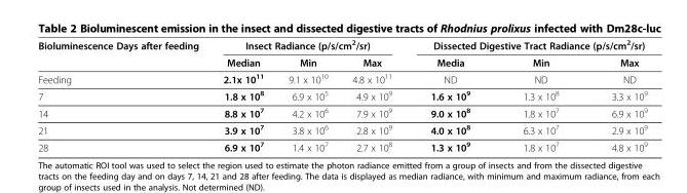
<table><thead><tr><td rowspan="2">Bioluminescence Days after feeding</td><td colspan="3">Insect Radiance (p/s/cm<sup>2</sup>/sr)</td><td colspan="3">Dissected Digestive Tract Radiance (p/s/cm<sup>2</sup>/sr)</td></tr><tr><td>Median</td><td>Min</td><td>Max</td><td>Media</td><td>Min</td><td>Max</td></tr></thead><tbody><tr><td>Feeding</td><td>2.1x 10<sup>11</sup></td><td>9.1 x 10<sup>10</sup></td><td>4.8 x 10<sup>11</sup></td><td>ND</td><td>ND</td><td>ND</td></tr><tr><td>7</td><td>1.8 x 10<sup>8</sup></td><td>6.9 x 10<sup>5</sup></td><td>4.9 x 10<sup>9</sup></td><td>1.6 x 10<sup>9</sup></td><td>1.3 x 10<sup>8</sup></td><td>3.3 x 10<sup>9</sup></td></tr><tr><td>14</td><td>8.8 x 10<sup>7</sup></td><td>4.2 x 10<sup>6</sup></td><td>7.9 x 10<sup>9</sup></td><td>9.0 x 10<sup>8</sup></td><td>1.8 x 10<sup>7</sup></td><td>6.9 x 10<sup>9</sup></td></tr><tr><td>21</td><td>3.9 x 10<sup>7</sup></td><td>3.8 x 10<sup>6</sup></td><td>2.8 x 10<sup>9</sup></td><td>4.0 x 10<sup>8</sup></td><td>6.3 x 10<sup>7</sup></td><td>2.9 x 10<sup>9</sup></td></tr><tr><td>28</td><td>6.9 x 10<sup>7</sup></td><td>1.4 x 10<sup>7</sup></td><td>2.7 x 10<sup>8</sup></td><td>1.3 x 10<sup>9</sup></td><td>1.8 x 10<sup>7</sup></td><td>4.8 x 10<sup>9</sup></td></tr></tbody></table>